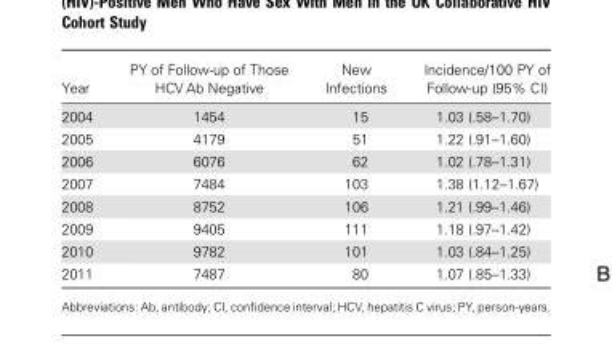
<table><thead><tr><td>Year</td><td>PY of Follow-up of Those HCV Ab Negative</td><td>New Infections</td><td>Incidence/100 PY of Follow-up (95% CI)</td></tr></thead><tbody><tr><td>2004</td><td>1454</td><td>15</td><td>1.03 (.58–1.70)</td></tr><tr><td>2005</td><td>4179</td><td>51</td><td>1.22 (.91–1.60)</td></tr><tr><td>2006</td><td>6076</td><td>62</td><td>1.02 (.78–1.31)</td></tr><tr><td>2007</td><td>7484</td><td>103</td><td>1.38 (1.12–1.67)</td></tr><tr><td>2008</td><td>8752</td><td>106</td><td>1.21 (.99–1.46)</td></tr><tr><td>2009</td><td>9405</td><td>111</td><td>1.18 (.97–1.42)</td></tr><tr><td>2010</td><td>9782</td><td>101</td><td>1.03 (.84–1.25)</td></tr><tr><td>2011</td><td>7487</td><td>80</td><td>1.07 (.85–1.33)</td></tr></tbody></table>